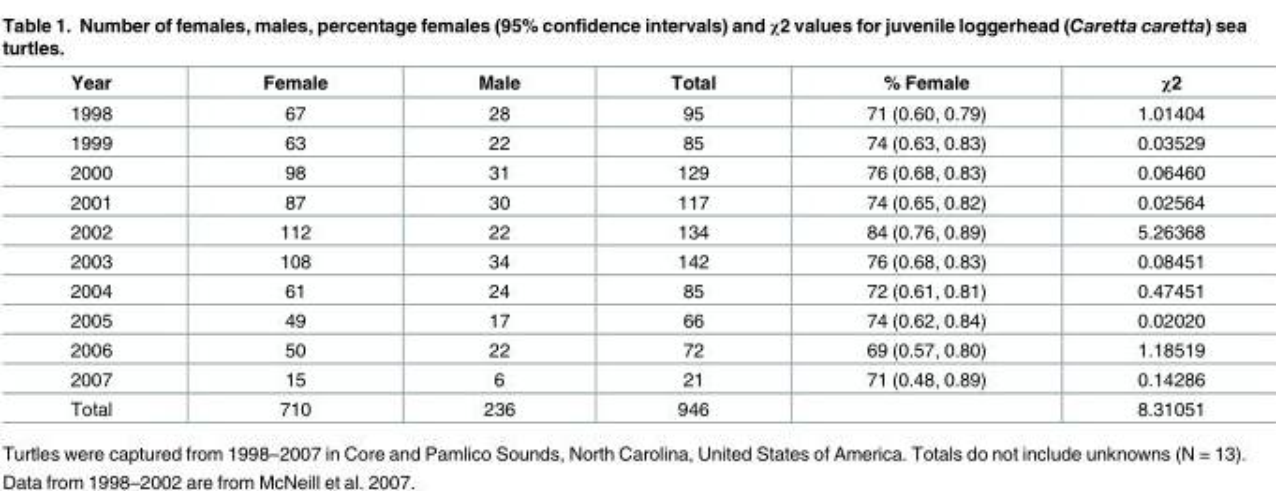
<table><thead><tr><td>Year</td><td>Female</td><td>Male</td><td>Total</td><td>% Female</td><td>χ2</td></tr></thead><tbody><tr><td>1998</td><td>67</td><td>28</td><td>95</td><td>71 (0.60, 0.79)</td><td>1.01404</td></tr><tr><td>1999</td><td>63</td><td>22</td><td>85</td><td>74 (0.63, 0.83)</td><td>0.03529</td></tr><tr><td>2000</td><td>98</td><td>31</td><td>129</td><td>76 (0.68, 0.83)</td><td>0.06460</td></tr><tr><td>2001</td><td>87</td><td>30</td><td>117</td><td>74 (0.65, 0.82)</td><td>0.02564</td></tr><tr><td>2002</td><td>112</td><td>22</td><td>134</td><td>84 (0.76, 0.89)</td><td>5.26368</td></tr><tr><td>2003</td><td>108</td><td>34</td><td>142</td><td>76 (0.68, 0.83)</td><td>0.08451</td></tr><tr><td>2004</td><td>61</td><td>24</td><td>85</td><td>72 (0.61, 0.81)</td><td>0.47451</td></tr><tr><td>2005</td><td>49</td><td>17</td><td>66</td><td>74 (0.62, 0.84)</td><td>0.02020</td></tr><tr><td>2006</td><td>50</td><td>22</td><td>72</td><td>69 (0.57, 0.80)</td><td>1.18519</td></tr><tr><td>2007</td><td>15</td><td>6</td><td>21</td><td>71 (0.48, 0.89)</td><td>0.14286</td></tr><tr><td>Total</td><td>710</td><td>236</td><td>946</td><td></td><td>8.31051</td></tr></tbody></table>